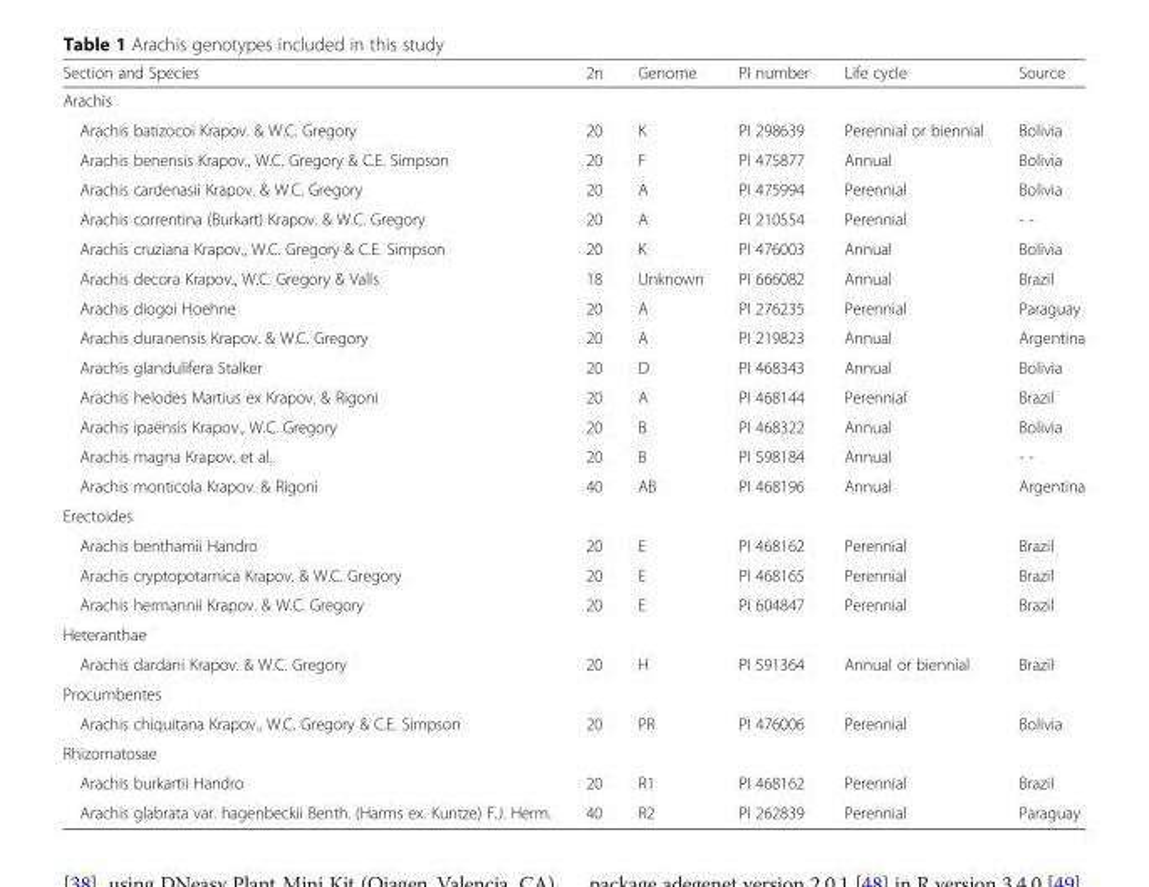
<table><thead><tr><td>Section and Species</td><td>2n</td><td>Genome</td><td>PI number</td><td>Life cycle</td><td>Source</td></tr></thead><tbody><tr><td colspan="6">Arachis</td></tr><tr><td>Arachis batizocoi Krapov. &amp; W.C. Gregory</td><td>20</td><td>K</td><td>PI 298639</td><td>Perennial or biennial</td><td>Bolivia</td></tr><tr><td>Arachis benensis Krapov., W.C. Gregory &amp; C.E. Simpson</td><td>20</td><td>F</td><td>PI 475877</td><td>Annual</td><td>Bolivia</td></tr><tr><td>Arachis cardenasii Krapov. &amp; W.C. Gregory</td><td>20</td><td>A</td><td>PI 475994</td><td>Perennial</td><td>Bolivia</td></tr><tr><td>Arachis correntina (Burkart) Krapov. &amp; W.C. Gregory</td><td>20</td><td>A</td><td>PI 210554</td><td>Perennial</td><td>- -</td></tr><tr><td>Arachis cruziana Krapov., W.C. Gregory &amp; C.E. Simpson</td><td>20</td><td>K</td><td>PI 476003</td><td>Annual</td><td>Bolivia</td></tr><tr><td>Arachis decora Krapov., W.C. Gregory &amp; Valls</td><td>18</td><td>Unknown</td><td>PI 666082</td><td>Annual</td><td>Brazil</td></tr><tr><td>Arachis diogoi Hoehne</td><td>20</td><td>A</td><td>PI 276235</td><td>Perennial</td><td>Paraguay</td></tr><tr><td>Arachis duranensis Krapov. &amp; W.C. Gregory</td><td>20</td><td>A</td><td>PI 219823</td><td>Annual</td><td>Argentina</td></tr><tr><td>Arachis glandulifera Stalker</td><td>20</td><td>D</td><td>PI 468343</td><td>Annual</td><td>Bolivia</td></tr><tr><td>Arachis helodes Martius ex Krapov. &amp; Rigoni</td><td>20</td><td>A</td><td>PI 468144</td><td>Perennial</td><td>Brazil</td></tr><tr><td>Arachis ipaënsis Krapov., W.C. Gregory</td><td>20</td><td>B</td><td>PI 468322</td><td>Annual</td><td>Bolivia</td></tr><tr><td>Arachis magna Krapov. et al.</td><td>20</td><td>B</td><td>PI 598184</td><td>Annual</td><td>- -</td></tr><tr><td>Arachis monticola Krapov. &amp; Rigoni</td><td>40</td><td>AB</td><td>PI 468196</td><td>Annual</td><td>Argentina</td></tr><tr><td colspan="6">Erectoides</td></tr><tr><td>Arachis benthamii Handro</td><td>20</td><td>E</td><td>PI 468162</td><td>Perennial</td><td>Brazil</td></tr><tr><td>Arachis cryptopotamica Krapov. &amp; W.C. Gregory</td><td>20</td><td>E</td><td>PI 468165</td><td>Perennial</td><td>Brazil</td></tr><tr><td>Arachis hermannii Krapov. &amp; W.C. Gregory</td><td>20</td><td>E</td><td>PI 604847</td><td>Perennial</td><td>Brazil</td></tr><tr><td colspan="6">Heteranthae</td></tr><tr><td>Arachis dardani Krapov. &amp; W.C. Gregory</td><td>20</td><td>H</td><td>PI 591364</td><td>Annual or biennial</td><td>Brazil</td></tr><tr><td colspan="6">Procumbentes</td></tr><tr><td>Arachis chiquitana Krapov., W.C. Gregory &amp; C.E. Simpson</td><td>20</td><td>PR</td><td>PI 476006</td><td>Perennial</td><td>Bolivia</td></tr><tr><td colspan="6">Rhizomatosae</td></tr><tr><td>Arachis burkartii Handro</td><td>20</td><td>R1</td><td>PI 468162</td><td>Perennial</td><td>Brazil</td></tr><tr><td>Arachis glabrata var. hagenbeckii Benth. (Harms ex. Kuntze) F.J. Herm.</td><td>40</td><td>R2</td><td>PI 262839</td><td>Perennial</td><td>Paraguay</td></tr></tbody></table>